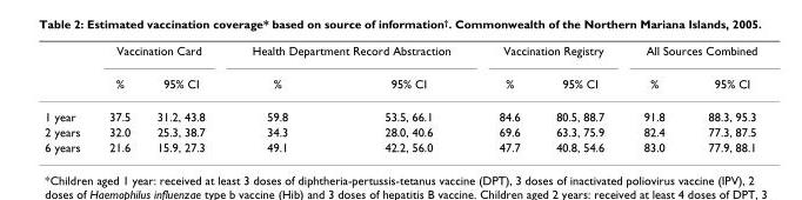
<table><thead><tr><td rowspan="2"></td><td colspan="2">Vaccination Card</td><td colspan="2">Health Department Record Abstraction</td><td colspan="2">Vaccination Registry</td><td colspan="2">All Sources Combined</td></tr><tr><td>%</td><td>95% CI</td><td>%</td><td>95% CI</td><td>%</td><td>95% CI</td><td>%</td><td>95% CI</td></tr></thead><tbody><tr><td>1 year</td><td>37.5</td><td>31.2, 43.8</td><td>59.8</td><td>53.5, 66.1</td><td>84.6</td><td>80.5, 88.7</td><td>91.8</td><td>88.3, 95.3</td></tr><tr><td>2 years</td><td>32.0</td><td>25.3, 38.7</td><td>34.3</td><td>28.0, 40.6</td><td>69.6</td><td>63.3, 75.9</td><td>82.4</td><td>77.3, 87.5</td></tr><tr><td>6 years</td><td>21.6</td><td>15.9, 27.3</td><td>49.1</td><td>42.2, 56.0</td><td>47.7</td><td>40.8, 54.6</td><td>83.0</td><td>77.9, 88.1</td></tr></tbody></table>